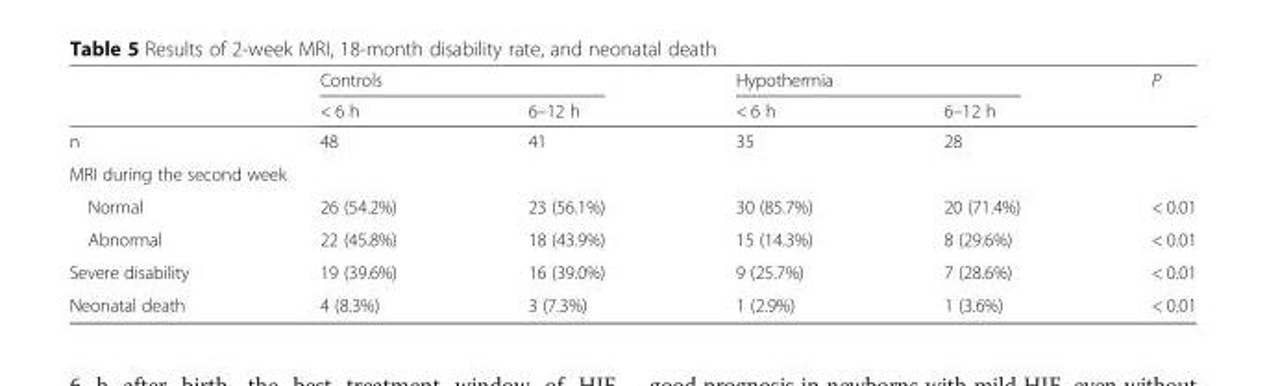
<table><thead><tr><td rowspan="2"></td><td colspan="2">Controls</td><td colspan="2">Hypothermia</td><td rowspan="2">P</td></tr><tr><td>&lt; 6 h</td><td>6–12 h</td><td>&lt; 6 h</td><td>6–12 h</td></tr></thead><tbody><tr><td>n</td><td>48</td><td>41</td><td>35</td><td>28</td><td></td></tr><tr><td colspan="6">MRI during the second week</td></tr><tr><td>Normal</td><td>26 (54.2%)</td><td>23 (56.1%)</td><td>30 (85.7%)</td><td>20 (71.4%)</td><td>&lt; 0.01</td></tr><tr><td>Abnormal</td><td>22 (45.8%)</td><td>18 (43.9%)</td><td>15 (14.3%)</td><td>8 (29.6%)</td><td>&lt; 0.01</td></tr><tr><td>Severe disability</td><td>19 (39.6%)</td><td>16 (39.0%)</td><td>9 (25.7%)</td><td>7 (28.6%)</td><td>&lt; 0.01</td></tr><tr><td>Neonatal death</td><td>4 (8.3%)</td><td>3 (7.3%)</td><td>1 (2.9%)</td><td>1 (3.6%)</td><td>&lt; 0.01</td></tr></tbody></table>